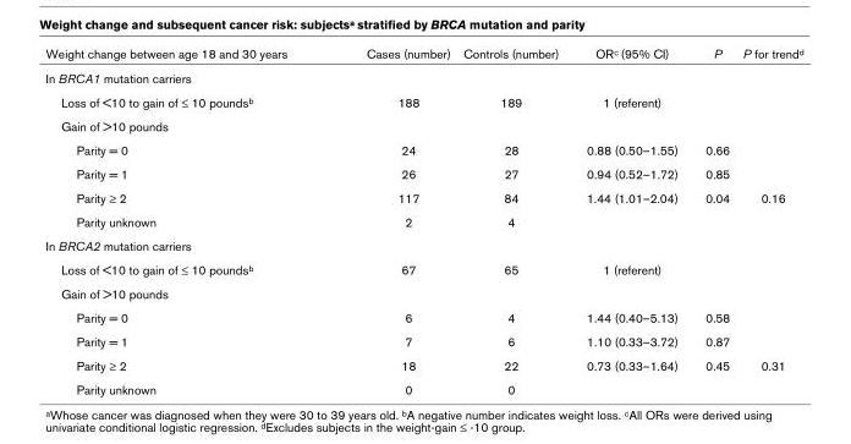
<table><thead><tr><td>Weight change between age 18 and 30 years</td><td>Cases (number)</td><td>Controls (number)</td><td>ORc (95% CI)</td><td>P</td><td>P for trendd</td></tr></thead><tbody><tr><td colspan="6">In BRCA1 mutation carriers</td></tr><tr><td>Loss of &lt;10 to gain of ≤ 10 poundsb</td><td>188</td><td>189</td><td>1 (referent)</td><td></td><td></td></tr><tr><td colspan="6">Gain of &gt;10 pounds</td></tr><tr><td>Parity = 0</td><td>24</td><td>28</td><td>0.88 (0.50–1.55)</td><td>0.66</td><td></td></tr><tr><td>Parity = 1</td><td>26</td><td>27</td><td>0.94 (0.52–1.72)</td><td>0.85</td><td></td></tr><tr><td>Parity ≥ 2</td><td>117</td><td>84</td><td>1.44 (1.01–2.04)</td><td>0.04</td><td>0.16</td></tr><tr><td>Parity unknown</td><td>2</td><td>4</td><td></td><td></td><td></td></tr><tr><td colspan="6">In BRCA2 mutation carriers</td></tr><tr><td>Loss of &lt;10 to gain of ≤ 10 poundsb</td><td>67</td><td>65</td><td>1 (referent)</td><td></td><td></td></tr><tr><td colspan="6">Gain of &gt;10 pounds</td></tr><tr><td>Parity = 0</td><td>6</td><td>4</td><td>1.44 (0.40–5.13)</td><td>0.58</td><td></td></tr><tr><td>Parity = 1</td><td>7</td><td>6</td><td>1.10 (0.33–3.72)</td><td>0.87</td><td></td></tr><tr><td>Parity ≥ 2</td><td>18</td><td>22</td><td>0.73 (0.33–1.64)</td><td>0.45</td><td>0.31</td></tr><tr><td>Parity unknown</td><td>0</td><td>0</td><td></td><td></td><td></td></tr></tbody></table>